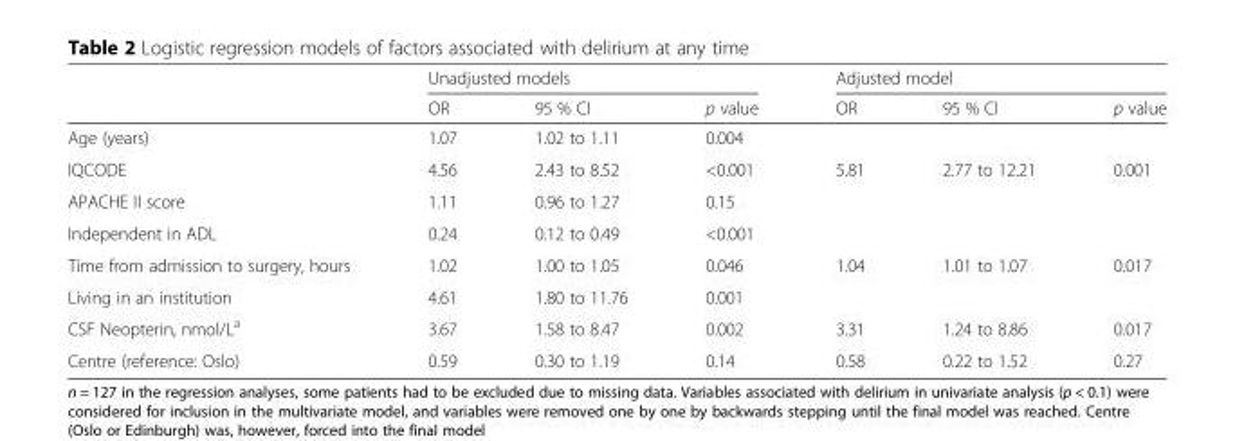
<table><thead><tr><td rowspan="2"></td><td colspan="3">Unadjusted models</td><td colspan="3">Adjusted model</td></tr><tr><td>OR</td><td>95 % CI</td><td>p value</td><td>OR</td><td>95 % CI</td><td>p value</td></tr></thead><tbody><tr><td>Age (years)</td><td>1.07</td><td>1.02 to 1.11</td><td>0.004</td><td></td><td></td><td></td></tr><tr><td>IQCODE</td><td>4.56</td><td>2.43 to 8.52</td><td>&lt;0.001</td><td>5.81</td><td>2.77 to 12.21</td><td>0.001</td></tr><tr><td>APACHE II score</td><td>1.11</td><td>0.96 to 1.27</td><td>0.15</td><td></td><td></td><td></td></tr><tr><td>Independent in ADL</td><td>0.24</td><td>0.12 to 0.49</td><td>&lt;0.001</td><td></td><td></td><td></td></tr><tr><td>Time from admission to surgery, hours</td><td>1.02</td><td>1.00 to 1.05</td><td>0.046</td><td>1.04</td><td>1.01 to 1.07</td><td>0.017</td></tr><tr><td>Living in an institution</td><td>4.61</td><td>1.80 to 11.76</td><td>0.001</td><td></td><td></td><td></td></tr><tr><td>CSF Neopterin, nmol/L<sup>a</sup></td><td>3.67</td><td>1.58 to 8.47</td><td>0.002</td><td>3.31</td><td>1.24 to 8.86</td><td>0.017</td></tr><tr><td>Centre (reference: Oslo)</td><td>0.59</td><td>0.30 to 1.19</td><td>0.14</td><td>0.58</td><td>0.22 to 1.52</td><td>0.27</td></tr></tbody></table>